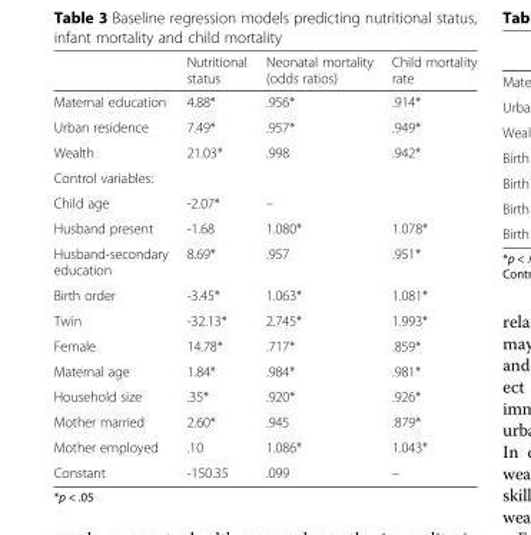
<table><thead><tr><td></td><td>Nutritional status</td><td>Neonatal mortality (odds ratios)</td><td>Child mortality rate</td></tr></thead><tbody><tr><td>Maternal education</td><td>4.88*</td><td>.956*</td><td>.914*</td></tr><tr><td>Urban residence</td><td>7.49*</td><td>.957*</td><td>.949*</td></tr><tr><td>Wealth</td><td>21.03*</td><td>.998</td><td>.942*</td></tr><tr><td colspan="4">Control variables:</td></tr><tr><td>Child age</td><td>-2.07*</td><td>–</td><td></td></tr><tr><td>Husband present</td><td>-1.68</td><td>1.080*</td><td>1.078*</td></tr><tr><td>Husband-secondary education</td><td>8.69*</td><td>.957</td><td>.951*</td></tr><tr><td>Birth order</td><td>-3.45*</td><td>1.063*</td><td>1.081*</td></tr><tr><td>Twin</td><td>-32.13*</td><td>2.745*</td><td>1.993*</td></tr><tr><td>Female</td><td>14.78*</td><td>.717*</td><td>.859*</td></tr><tr><td>Maternal age</td><td>1.84*</td><td>.984*</td><td>.981*</td></tr><tr><td>Household size</td><td>.35*</td><td>.920*</td><td>.926*</td></tr><tr><td>Mother married</td><td>2.60*</td><td>.945</td><td>.879*</td></tr><tr><td>Mother employed</td><td>.10</td><td>1.086*</td><td>1.043*</td></tr><tr><td>Constant</td><td>-150.35</td><td>.099</td><td>–</td></tr></tbody></table>